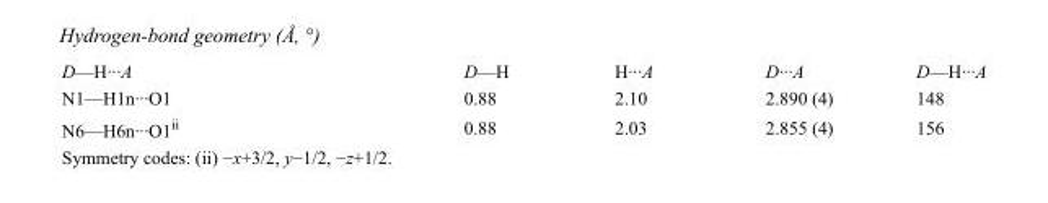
<table><tbody><tr><td>D—H···A</td><td>D—H</td><td>H···A</td><td>D···A</td><td>D—H···A</td></tr><tr><td>N1—H1n···O1</td><td>0.88</td><td>2.10</td><td>2.890 (4)</td><td>148</td></tr><tr><td>N6—H6n···O1<sup>ii</sup></td><td>0.88</td><td>2.03</td><td>2.855 (4)</td><td>156</td></tr></tbody></table>